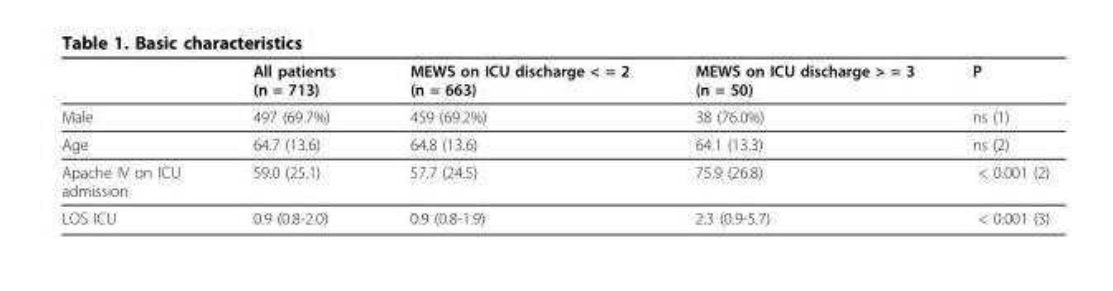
<table><thead><tr><td></td><td>All patients (n = 713)</td><td>MEWS on ICU discharge &lt; = 2 (n = 663)</td><td>MEWS on ICU discharge &gt; = 3 (n = 50)</td><td>P</td></tr></thead><tbody><tr><td>Male</td><td>497 (69.7%)</td><td>459 (69.2%)</td><td>38 (76.0%)</td><td>ns (1)</td></tr><tr><td>Age</td><td>64.7 (13.6)</td><td>64.8 (13.6)</td><td>64.1 (13.3)</td><td>ns (2)</td></tr><tr><td>Apache IV on ICU admission</td><td>59.0 (25.1)</td><td>57.7 (24.5)</td><td>75.9 (26.8)</td><td>&lt; 0.001 (2)</td></tr><tr><td>LOS ICU</td><td>0.9 (0.8-2.0)</td><td>0.9 (0.8-1.9)</td><td>2.3 (0.9-5.7)</td><td>&lt; 0.001 (3)</td></tr></tbody></table>